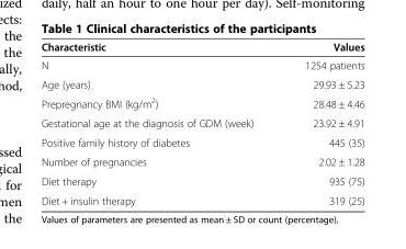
<table><thead><tr><td>Characteristic</td><td>Values</td></tr></thead><tbody><tr><td>N</td><td>1254 patients</td></tr><tr><td>Age (years)</td><td>29.93 ± 5.23</td></tr><tr><td>Prepregnancy BMI (kg/m<sup>2</sup>)</td><td>28.48 ± 4.46</td></tr><tr><td>Gestational age at the diagnosis of GDM (week)</td><td>23.92 ± 4.91</td></tr><tr><td>Positive family history of diabetes</td><td>445 (35)</td></tr><tr><td>Number of pregnancies</td><td>2.02 ± 1.28</td></tr><tr><td>Diet therapy</td><td>935 (75)</td></tr><tr><td>Diet + insulin therapy</td><td>319 (25)</td></tr></tbody></table>